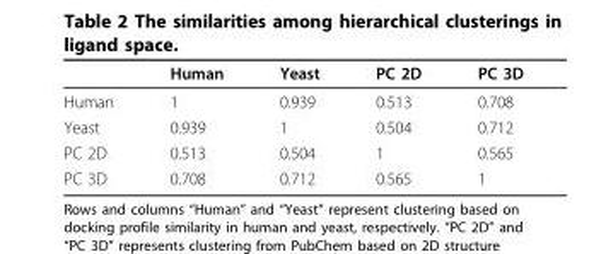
<table><thead><tr><td></td><td>Human</td><td>Yeast</td><td>PC 2D</td><td>PC 3D</td></tr></thead><tbody><tr><td>Human</td><td>1</td><td>0.939</td><td>0.513</td><td>0.708</td></tr><tr><td>Yeast</td><td>0.939</td><td>1</td><td>0.504</td><td>0.712</td></tr><tr><td>PC 2D</td><td>0.513</td><td>0.504</td><td>1</td><td>0.565</td></tr><tr><td>PC 3D</td><td>0.708</td><td>0.712</td><td>0.565</td><td>1</td></tr></tbody></table>